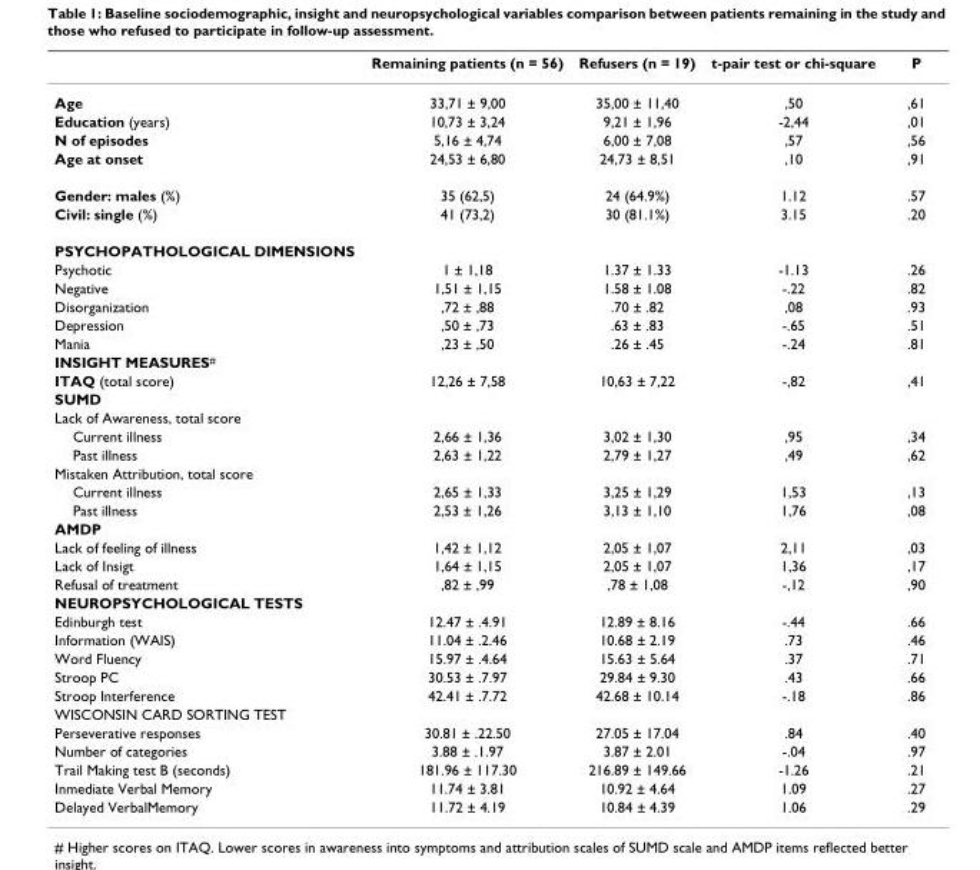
<table><thead><tr><td></td><td>Remaining patients (n = 56)</td><td>Refusers (n = 19)</td><td>t-pair test or chi-square</td><td>P</td></tr></thead><tbody><tr><td>Age</td><td>33,71 ± 9,00</td><td>35,00 ± 11,40</td><td>,50</td><td>,61</td></tr><tr><td>Education (years)</td><td>10,73 ± 3,24</td><td>9,21 ± 1,96</td><td>-2,44</td><td>,01</td></tr><tr><td>N of episodes</td><td>5,16 ± 4,74</td><td>6,00 ± 7,08</td><td>,57</td><td>,56</td></tr><tr><td>Age at onset</td><td>24,53 ± 6,80</td><td>24,73 ± 8,51</td><td>,10</td><td>,91</td></tr><tr><td>Gender: males (%)</td><td>35 (62,5)</td><td>24 (64.9%)</td><td>1.12</td><td>.57</td></tr><tr><td>Civil: single (%)</td><td>41 (73,2)</td><td>30 (81.1%)</td><td>3.15</td><td>.20</td></tr><tr><td colspan="5">PSYCHOPATHOLOGICAL DIMENSIONS</td></tr><tr><td>Psychotic</td><td>1 ± 1,18</td><td>1.37 ± 1.33</td><td>-1.13</td><td>.26</td></tr><tr><td>Negative</td><td>1,51 ± 1,15</td><td>1.58 ± 1.08</td><td>-.22</td><td>.82</td></tr><tr><td>Disorganization</td><td>,72 ± ,88</td><td>.70 ± .82</td><td>,08</td><td>.93</td></tr><tr><td>Depression</td><td>,50 ± ,73</td><td>.63 ± .83</td><td>-.65</td><td>.51</td></tr><tr><td>Mania</td><td>,23 ± ,50</td><td>.26 ± .45</td><td>-.24</td><td>.81</td></tr><tr><td colspan="5">INSIGHT MEASURES<sup>#</sup></td></tr><tr><td>ITAQ (total score)</td><td>12,26 ± 7,58</td><td>10,63 ± 7,22</td><td>-,82</td><td>,41</td></tr><tr><td colspan="5">SUMD</td></tr><tr><td colspan="5">Lack of Awareness, total score</td></tr><tr><td>Current illness</td><td>2,66 ± 1,36</td><td>3,02 ± 1,30</td><td>,95</td><td>,34</td></tr><tr><td>Past illness</td><td>2,63 ± 1,22</td><td>2,79 ± 1,27</td><td>,49</td><td>,62</td></tr><tr><td colspan="5">Mistaken Attribution, total score</td></tr><tr><td>Current illness</td><td>2,65 ± 1,33</td><td>3,25 ± 1,29</td><td>1,53</td><td>,13</td></tr><tr><td>Past illness</td><td>2,53 ± 1,26</td><td>3,13 ± 1,10</td><td>1,76</td><td>,08</td></tr><tr><td colspan="5">AMDP</td></tr><tr><td>Lack of feeling of illness</td><td>1,42 ± 1,12</td><td>2,05 ± 1,07</td><td>2,11</td><td>,03</td></tr><tr><td>Lack of Insigt</td><td>1,64 ± 1,15</td><td>2,05 ± 1,07</td><td>1,36</td><td>,17</td></tr><tr><td>Refusal of treatment</td><td>,82 ± ,99</td><td>,78 ± 1,08</td><td>-,12</td><td>,90</td></tr><tr><td colspan="5">NEUROPSYCHOLOGICAL TESTS</td></tr><tr><td>Edinburgh test</td><td>12.47 ± .4.91</td><td>12.89 ± 8.16</td><td>-.44</td><td>.66</td></tr><tr><td>Information (WAIS)</td><td>11.04 ± .2.46</td><td>10.68 ± 2.19</td><td>.73</td><td>.46</td></tr><tr><td>Word Fluency</td><td>15.97 ± .4.64</td><td>15.63 ± 5.64</td><td>.37</td><td>.71</td></tr><tr><td>Stroop PC</td><td>30.53 ± .7.97</td><td>29.84 ± 9.30</td><td>.43</td><td>.66</td></tr><tr><td>Stroop Interference</td><td>42.41 ± .7.72</td><td>42.68 ± 10.14</td><td>-.18</td><td>.86</td></tr><tr><td colspan="5">WISCONSIN CARD SORTING TEST</td></tr><tr><td>Perseverative responses</td><td>30.81 ± .22.50</td><td>27.05 ± 17.04</td><td>.84</td><td>.40</td></tr><tr><td>Number of categories</td><td>3.88 ± .1.97</td><td>3.87 ± 2.01</td><td>-.04</td><td>.97</td></tr><tr><td>Trail Making test B (seconds)</td><td>181.96 ± 117.30</td><td>216.89 ± 149.66</td><td>-1.26</td><td>.21</td></tr><tr><td>Inmediate Verbal Memory</td><td>11.74 ± 3.81</td><td>10.92 ± 4.64</td><td>1.09</td><td>.27</td></tr><tr><td>Delayed VerbalMemory</td><td>11.72 ± 4.19</td><td>10.84 ± 4.39</td><td>1.06</td><td>.29</td></tr></tbody></table>